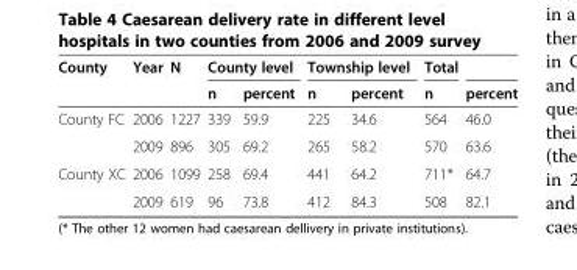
<table><thead><tr><td rowspan="2">County</td><td rowspan="2">Year</td><td rowspan="2">N</td><td colspan="2">County level</td><td colspan="2">Township level</td><td rowspan="2">Total n</td><td rowspan="2">percent</td></tr><tr><td>n</td><td>percent</td><td>n</td><td>percent</td></tr></thead><tbody><tr><td rowspan="2">County FC</td><td>2006</td><td>1227</td><td>339</td><td>59.9</td><td>225</td><td>34.6</td><td>564</td><td>46.0</td></tr><tr><td>2009</td><td>896</td><td>305</td><td>69.2</td><td>265</td><td>58.2</td><td>570</td><td>63.6</td></tr><tr><td rowspan="2">County XC</td><td>2006</td><td>1099</td><td>258</td><td>69.4</td><td>441</td><td>64.2</td><td>711*</td><td>64.7</td></tr><tr><td>2009</td><td>619</td><td>96</td><td>73.8</td><td>412</td><td>84.3</td><td>508</td><td>82.1</td></tr></tbody></table>